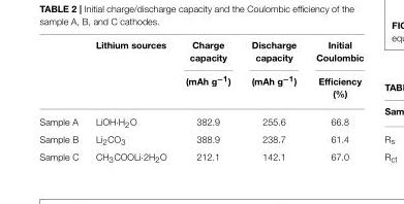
<table><thead><tr><td rowspan="2"></td><td rowspan="2">Lithium sources</td><td rowspan="2">Charge capacity (mAh g<sup>−1</sup>)</td><td rowspan="2">Discharge capacity (mAh g<sup>−1</sup>)</td><td rowspan="2">Initial Coulombic Efficiency (%)</td></tr><tr></tr></thead><tbody><tr><td>Sample A</td><td>LiOH·H<sub>2</sub>O</td><td>382.9</td><td>255.6</td><td>66.8</td></tr><tr><td>Sample B</td><td>Li<sub>2</sub>CO<sub>3</sub></td><td>388.9</td><td>238.7</td><td>61.4</td></tr><tr><td>Sample C</td><td>CH<sub>3</sub>COOLi·2H<sub>2</sub>O</td><td>212.1</td><td>142.1</td><td>67.0</td></tr></tbody></table>